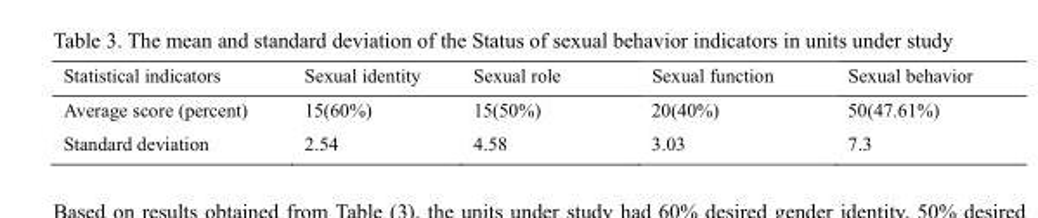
<table><thead><tr><td>Statistical indicators</td><td>Sexual identity</td><td>Sexual role</td><td>Sexual function</td><td>Sexual behavior</td></tr></thead><tbody><tr><td>Average score (percent)</td><td>15(60%)</td><td>15(50%)</td><td>20(40%)</td><td>50(47.61%)</td></tr><tr><td>Standard deviation</td><td>2.54</td><td>4.58</td><td>3.03</td><td>7.3</td></tr></tbody></table>